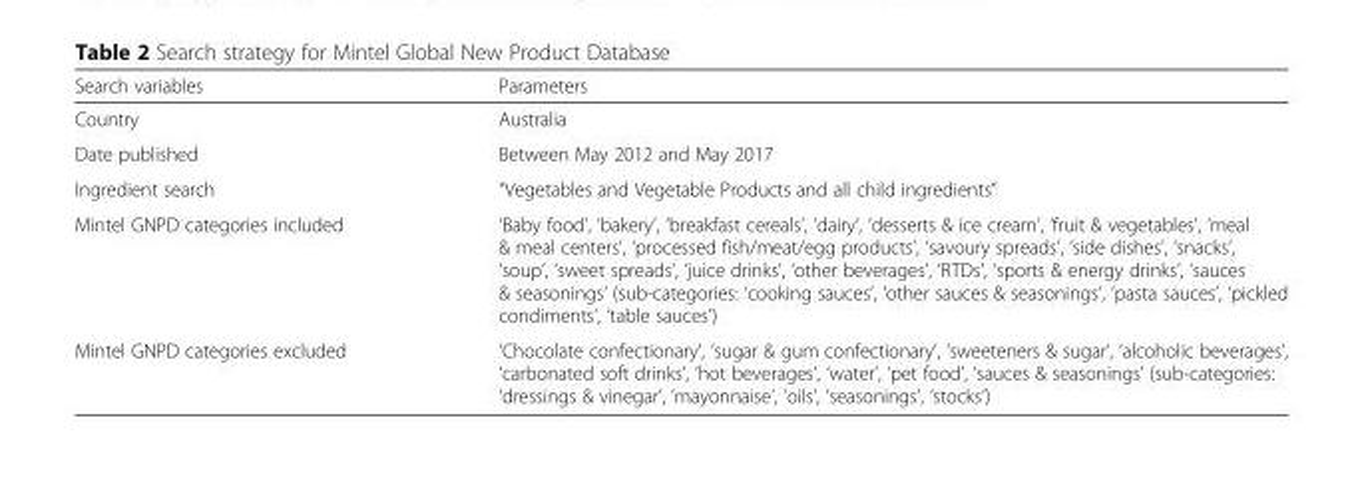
<table><thead><tr><td>Search variables</td><td>Parameters</td></tr></thead><tbody><tr><td>Country</td><td>Australia</td></tr><tr><td>Date published</td><td>Between May 2012 and May 2017</td></tr><tr><td>Ingredient search</td><td>“Vegetables and Vegetable Products and all child ingredients”</td></tr><tr><td>Mintel GNPD categories included</td><td>‘Baby food’, ‘bakery’, ‘breakfast cereals’, ‘dairy’, ‘desserts &amp; ice cream’, ‘fruit &amp; vegetables’, ‘meal &amp; meal centers’, ‘processed fish/meat/egg products’, ‘savoury spreads’, ‘side dishes’, ‘snacks’, ‘soup’, ‘sweet spreads’, ‘juice drinks’, ‘other beverages’, ‘RTDs’, ‘sports &amp; energy drinks’, ‘sauces &amp; seasonings’ (sub-categories: ‘cooking sauces’, ‘other sauces &amp; seasonings’, ‘pasta sauces’, ‘pickled condiments’, ‘table sauces’)</td></tr><tr><td>Mintel GNPD categories excluded</td><td>‘Chocolate confectionary‘, ‘sugar &amp; gum confectionary’, ‘sweeteners &amp; sugar’, ‘alcoholic beverages’, ‘carbonated soft drinks’, ‘hot beverages’, ‘water’, ‘pet food’, ‘sauces &amp; seasonings’ (sub-categories: ‘dressings &amp; vinegar’, ‘mayonnaise’, ‘oils’, ‘seasonings’, ‘stocks’)</td></tr></tbody></table>